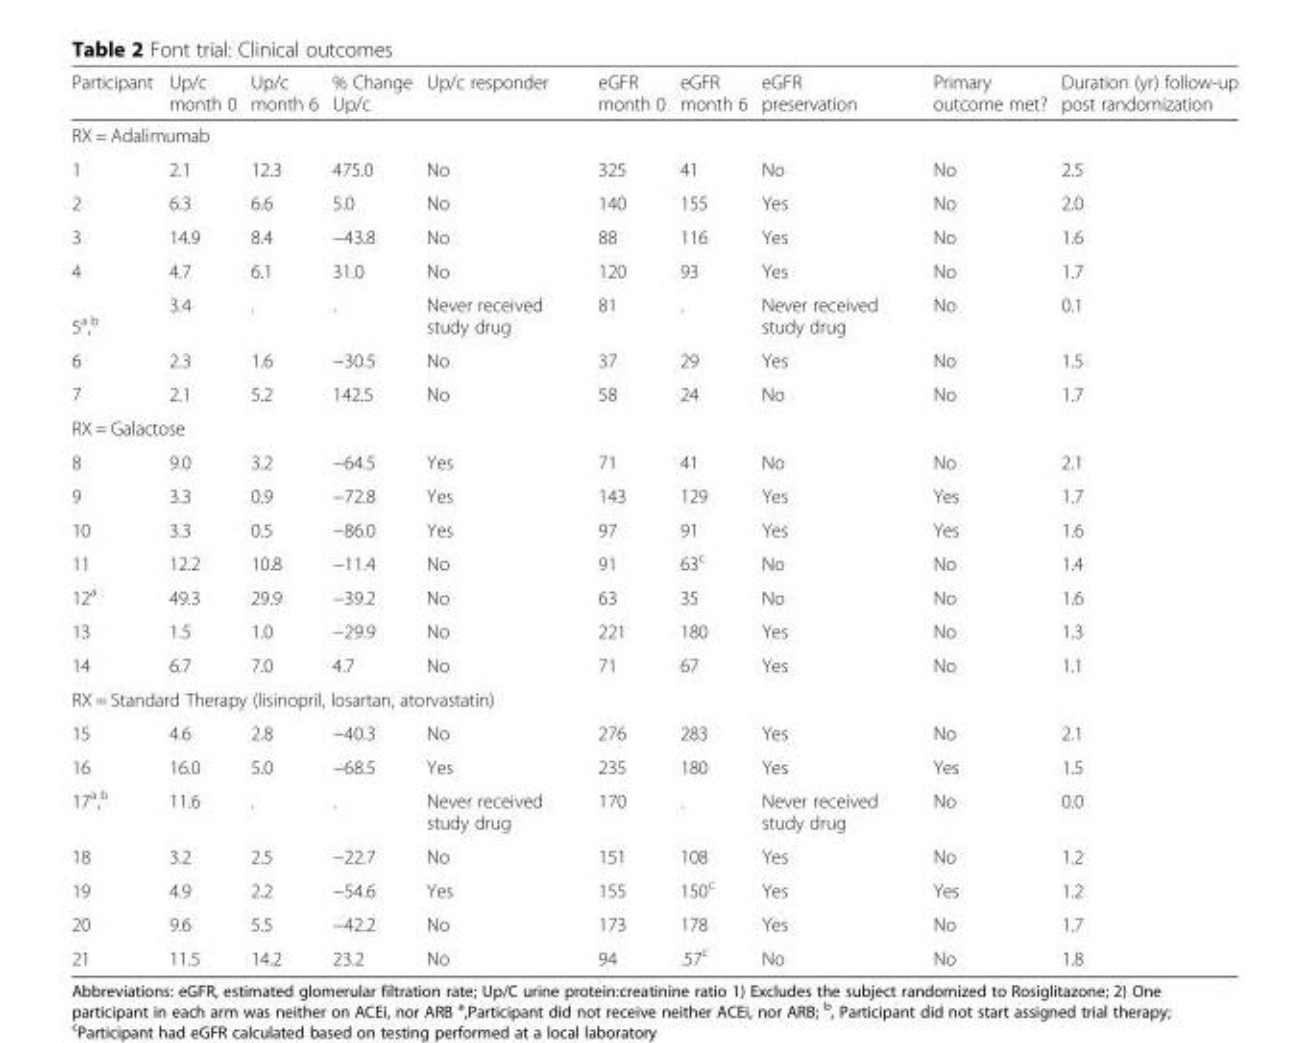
<table><thead><tr><td>Participant</td><td>Up/c month 0</td><td>Up/c month 6</td><td>% Change Up/c</td><td>Up/c responder</td><td>eGFR month 0</td><td>eGFR month 6</td><td>eGFR preservation</td><td>Primary outcome met?</td><td>Duration (yr) follow-up post randomization</td></tr></thead><tbody><tr><td colspan="10">RX = Adalimumab</td></tr><tr><td>1</td><td>2.1</td><td>12.3</td><td>475.0</td><td>No</td><td>325</td><td>41</td><td>No</td><td>No</td><td>2.5</td></tr><tr><td>2</td><td>6.3</td><td>6.6</td><td>5.0</td><td>No</td><td>140</td><td>155</td><td>Yes</td><td>No</td><td>2.0</td></tr><tr><td>3</td><td>14.9</td><td>8.4</td><td>−43.8</td><td>No</td><td>88</td><td>116</td><td>Yes</td><td>No</td><td>1.6</td></tr><tr><td>4</td><td>4.7</td><td>6.1</td><td>31.0</td><td>No</td><td>120</td><td>93</td><td>Yes</td><td>No</td><td>1.7</td></tr><tr><td>5<sup>a</sup>,<sup>b</sup></td><td>3.4</td><td>.</td><td>.</td><td>Never received study drug</td><td>81</td><td>.</td><td>Never received study drug</td><td>No</td><td>0.1</td></tr><tr><td>6</td><td>2.3</td><td>1.6</td><td>−30.5</td><td>No</td><td>37</td><td>29</td><td>Yes</td><td>No</td><td>1.5</td></tr><tr><td>7</td><td>2.1</td><td>5.2</td><td>142.5</td><td>No</td><td>58</td><td>24</td><td>No</td><td>No</td><td>1.7</td></tr><tr><td colspan="10">RX = Galactose</td></tr><tr><td>8</td><td>9.0</td><td>3.2</td><td>−64.5</td><td>Yes</td><td>71</td><td>41</td><td>No</td><td>No</td><td>2.1</td></tr><tr><td>9</td><td>3.3</td><td>0.9</td><td>−72.8</td><td>Yes</td><td>143</td><td>129</td><td>Yes</td><td>Yes</td><td>1.7</td></tr><tr><td>10</td><td>3.3</td><td>0.5</td><td>−86.0</td><td>Yes</td><td>97</td><td>91</td><td>Yes</td><td>Yes</td><td>1.6</td></tr><tr><td>11</td><td>12.2</td><td>10.8</td><td>−11.4</td><td>No</td><td>91</td><td>63<sup>c</sup></td><td>No</td><td>No</td><td>1.4</td></tr><tr><td>12<sup>a</sup></td><td>49.3</td><td>29.9</td><td>−39.2</td><td>No</td><td>63</td><td>35</td><td>No</td><td>No</td><td>1.6</td></tr><tr><td>13</td><td>1.5</td><td>1.0</td><td>−29.9</td><td>No</td><td>221</td><td>180</td><td>Yes</td><td>No</td><td>1.3</td></tr><tr><td>14</td><td>6.7</td><td>7.0</td><td>4.7</td><td>No</td><td>71</td><td>67</td><td>Yes</td><td>No</td><td>1.1</td></tr><tr><td colspan="10">RX = Standard Therapy (lisinopril, losartan, atorvastatin)</td></tr><tr><td>15</td><td>4.6</td><td>2.8</td><td>−40.3</td><td>No</td><td>276</td><td>283</td><td>Yes</td><td>No</td><td>2.1</td></tr><tr><td>16</td><td>16.0</td><td>5.0</td><td>−68.5</td><td>Yes</td><td>235</td><td>180</td><td>Yes</td><td>Yes</td><td>1.5</td></tr><tr><td>17<sup>a</sup>,<sup>b</sup></td><td>11.6</td><td>.</td><td>.</td><td>Never received study drug</td><td>170</td><td>.</td><td>Never received study drug</td><td>No</td><td>0.0</td></tr><tr><td>18</td><td>3.2</td><td>2.5</td><td>−22.7</td><td>No</td><td>151</td><td>108</td><td>Yes</td><td>No</td><td>1.2</td></tr><tr><td>19</td><td>4.9</td><td>2.2</td><td>−54.6</td><td>Yes</td><td>155</td><td>150<sup>c</sup></td><td>Yes</td><td>Yes</td><td>1.2</td></tr><tr><td>20</td><td>9.6</td><td>5.5</td><td>−42.2</td><td>No</td><td>173</td><td>178</td><td>Yes</td><td>No</td><td>1.7</td></tr><tr><td>21</td><td>11.5</td><td>14.2</td><td>23.2</td><td>No</td><td>94</td><td>.57<sup>c</sup></td><td>No</td><td>No</td><td>1.8</td></tr></tbody></table>